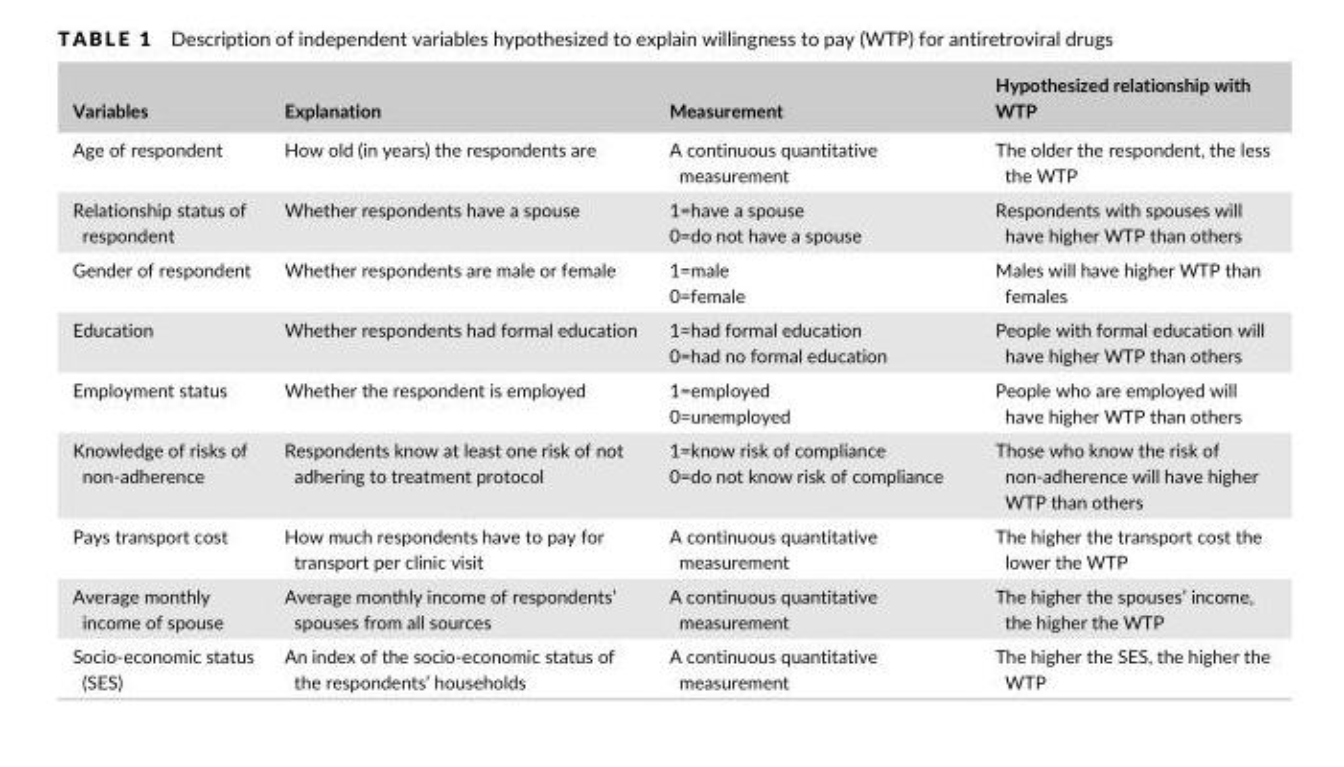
<table><thead><tr><td>Variables</td><td>Explanation</td><td>Measurement</td><td>Hypothesized relationship with WTP</td></tr></thead><tbody><tr><td>Age of respondent</td><td>How old (in years) the respondents are</td><td>A continuous quantitative measurement</td><td>The older the respondent, the less the WTP</td></tr><tr><td>Relationship status of respondent</td><td>Whether respondents have a spouse</td><td>1=have a spouse 0=do not have a spouse</td><td>Respondents with spouses will have higher WTP than others</td></tr><tr><td>Gender of respondent</td><td>Whether respondents are male or female</td><td>1=male 0=female</td><td>Males will have higher WTP than females</td></tr><tr><td>Education</td><td>Whether respondents had formal education</td><td>1=had formal education 0=had no formal education</td><td>People with formal education will have higher WTP than others</td></tr><tr><td>Employment status</td><td>Whether the respondent is employed</td><td>1=employed 0=unemployed</td><td>People who are employed will have higher WTP than others</td></tr><tr><td>Knowledge of risks of non- adherence</td><td>Respondents know at least one risk of not adhering to treatment protocol</td><td>1=know risk of compliance 0=do not know risk of compliance</td><td>Those who know the risk of non- adherence will have higher WTP than others</td></tr><tr><td>Pays transport cost</td><td>How much respondents have to pay for transport per clinic visit</td><td>A continuous quantitative measurement</td><td>The higher the transport cost the lower the WTP</td></tr><tr><td>Average monthly income of spouse</td><td>Average monthly income of respondents’ spouses from all sources</td><td>A continuous quantitative measurement</td><td>The higher the spouses’ income, the higher the WTP</td></tr><tr><td>Socio- economic status (SES)</td><td>An index of the socio- economic status of the respondents’ households</td><td>A continuous quantitative measurement</td><td>The higher the SES, the higher the WTP</td></tr></tbody></table>